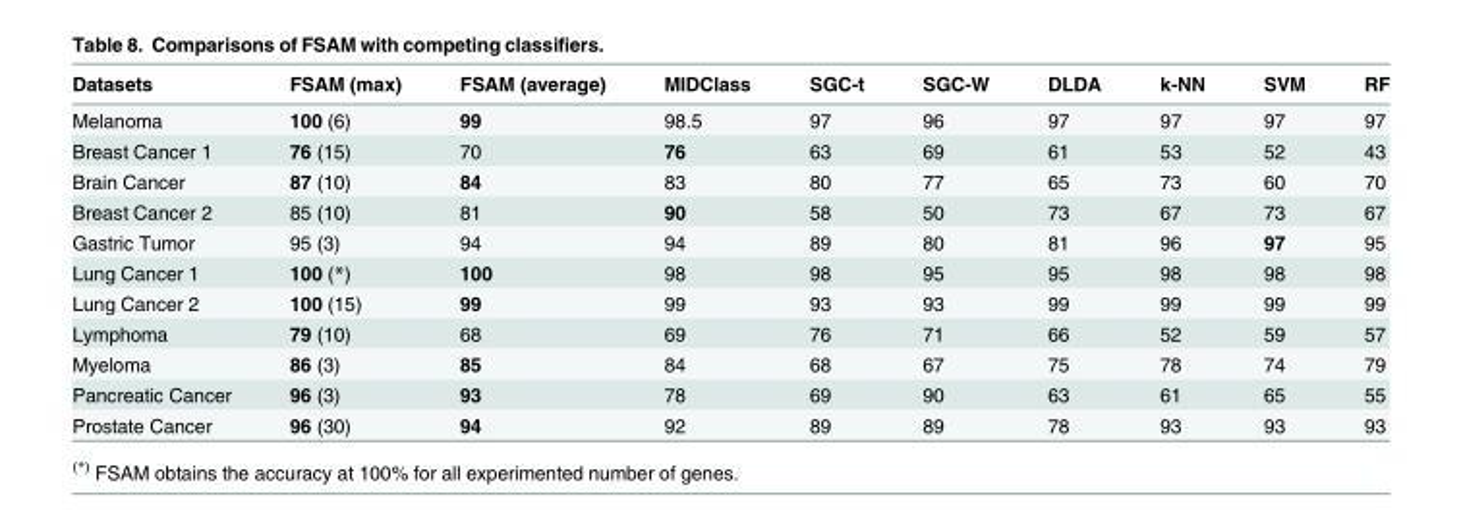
<table><thead><tr><td>Datasets</td><td>FSAM (max)</td><td>FSAM (average)</td><td>MIDClass</td><td>SGC-t</td><td>SGC-W</td><td>DLDA</td><td>k-NN</td><td>SVM</td><td>RF</td></tr></thead><tbody><tr><td>Melanoma</td><td>100 (6)</td><td>99</td><td>98.5</td><td>97</td><td>96</td><td>97</td><td>97</td><td>97</td><td>97</td></tr><tr><td>Breast Cancer 1</td><td>76 (15)</td><td>70</td><td>76</td><td>63</td><td>69</td><td>61</td><td>53</td><td>52</td><td>43</td></tr><tr><td>Brain Cancer</td><td>87 (10)</td><td>84</td><td>83</td><td>80</td><td>77</td><td>65</td><td>73</td><td>60</td><td>70</td></tr><tr><td>Breast Cancer 2</td><td>85 (10)</td><td>81</td><td>90</td><td>58</td><td>50</td><td>73</td><td>67</td><td>73</td><td>67</td></tr><tr><td>Gastric Tumor</td><td>95 (3)</td><td>94</td><td>94</td><td>89</td><td>80</td><td>81</td><td>96</td><td>97</td><td>95</td></tr><tr><td>Lung Cancer 1</td><td>100 (*)</td><td>100</td><td>98</td><td>98</td><td>95</td><td>95</td><td>98</td><td>98</td><td>98</td></tr><tr><td>Lung Cancer 2</td><td>100 (15)</td><td>99</td><td>99</td><td>93</td><td>93</td><td>99</td><td>99</td><td>99</td><td>99</td></tr><tr><td>Lymphoma</td><td>79 (10)</td><td>68</td><td>69</td><td>76</td><td>71</td><td>66</td><td>52</td><td>59</td><td>57</td></tr><tr><td>Myeloma</td><td>86 (3)</td><td>85</td><td>84</td><td>68</td><td>67</td><td>75</td><td>78</td><td>74</td><td>79</td></tr><tr><td>Pancreatic Cancer</td><td>96 (3)</td><td>93</td><td>78</td><td>69</td><td>90</td><td>63</td><td>61</td><td>65</td><td>55</td></tr><tr><td>Prostate Cancer</td><td>96 (30)</td><td>94</td><td>92</td><td>89</td><td>89</td><td>78</td><td>93</td><td>93</td><td>93</td></tr></tbody></table>